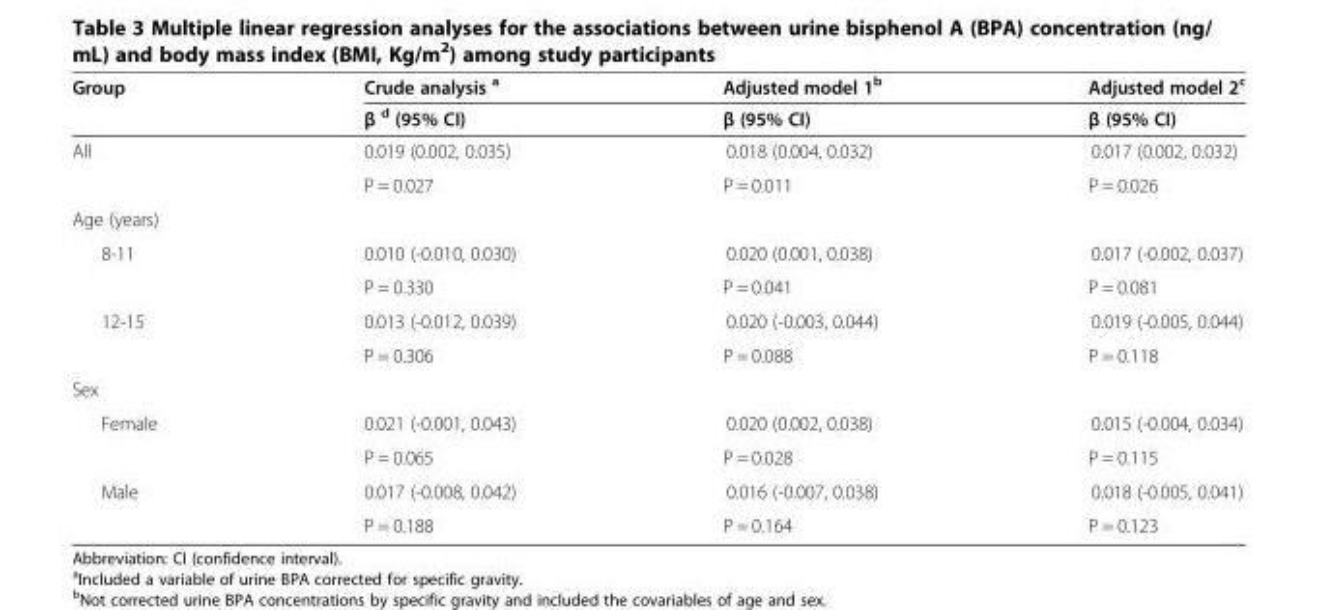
<table><thead><tr><td>Group</td><td>Crude analysis <sup>a</sup></td><td>Adjusted model 1<sup>b</sup></td><td>Adjusted model 2<sup>c</sup></td></tr></thead><tbody><tr><td></td><td>β <sup>d</sup> (95% CI)</td><td>β (95% CI)</td><td>β (95% CI)</td></tr><tr><td rowspan="2">All</td><td>0.019 (0.002, 0.035)</td><td>0.018 (0.004, 0.032)</td><td>0.017 (0.002, 0.032)</td></tr><tr><td>P = 0.027</td><td>P = 0.011</td><td>P = 0.026</td></tr><tr><td colspan="4">Age (years)</td></tr><tr><td rowspan="2">8-11</td><td>0.010 (-0.010, 0.030)</td><td>0.020 (0.001, 0.038)</td><td>0.017 (-0.002, 0.037)</td></tr><tr><td>P = 0.330</td><td>P = 0.041</td><td>P = 0.081</td></tr><tr><td rowspan="2">12-15</td><td>0.013 (-0.012, 0.039)</td><td>0.020 (-0.003, 0.044)</td><td>0.019 (-0.005, 0.044)</td></tr><tr><td>P = 0.306</td><td>P = 0.088</td><td>P = 0.118</td></tr><tr><td colspan="4">Sex</td></tr><tr><td rowspan="2">Female</td><td>0.021 (-0.001, 0.043)</td><td>0.020 (0.002, 0.038)</td><td>0.015 (-0.004, 0.034)</td></tr><tr><td>P = 0.065</td><td>P = 0.028</td><td>P = 0.115</td></tr><tr><td rowspan="2">Male</td><td>0.017 (-0.008, 0.042)</td><td>0.016 (-0.007, 0.038)</td><td>0.018 (-0.005, 0.041)</td></tr><tr><td>P = 0.188</td><td>P = 0.164</td><td>P = 0.123</td></tr></tbody></table>